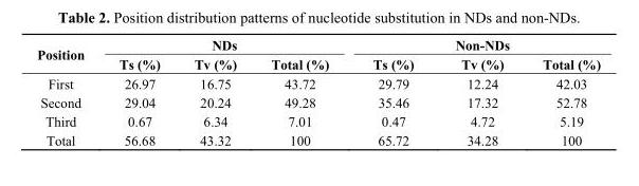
<table><thead><tr><td rowspan="2">Position</td><td colspan="3">NDs</td><td colspan="3">Non-NDs</td></tr><tr><td>Ts (%)</td><td>Tv (%)</td><td>Total (%)</td><td>Ts (%)</td><td>Tv (%)</td><td>Total (%)</td></tr></thead><tbody><tr><td>First</td><td>26.97</td><td>16.75</td><td>43.72</td><td>29.79</td><td>12.24</td><td>42.03</td></tr><tr><td>Second</td><td>29.04</td><td>20.24</td><td>49.28</td><td>35.46</td><td>17.32</td><td>52.78</td></tr><tr><td>Third</td><td>0.67</td><td>6.34</td><td>7.01</td><td>0.47</td><td>4.72</td><td>5.19</td></tr><tr><td>Total</td><td>56.68</td><td>43.32</td><td>100</td><td>65.72</td><td>34.28</td><td>100</td></tr></tbody></table>